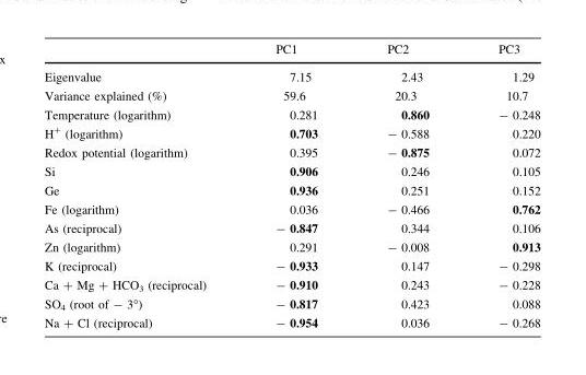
<table><thead><tr><td></td><td>PC1</td><td>PC2</td><td>PC3</td></tr></thead><tbody><tr><td>Eigenvalue</td><td>7.15</td><td>2.43</td><td>1.29</td></tr><tr><td>Variance explained (%)</td><td>59.6</td><td>20.3</td><td>10.7</td></tr><tr><td>Temperature (logarithm)</td><td>0.281</td><td>0.860</td><td>- 0.248</td></tr><tr><td>H<sup>+</sup> (logarithm)</td><td>0.703</td><td>- 0.588</td><td>0.220</td></tr><tr><td>Redox potential (logarithm)</td><td>0.395</td><td>- 0.875</td><td>0.072</td></tr><tr><td>Si</td><td>0.906</td><td>0.246</td><td>0.105</td></tr><tr><td>Ge</td><td>0.936</td><td>0.251</td><td>0.152</td></tr><tr><td>Fe (logarithm)</td><td>0.036</td><td>- 0.466</td><td>0.762</td></tr><tr><td>As (reciprocal)</td><td>- 0.847</td><td>0.344</td><td>0.106</td></tr><tr><td>Zn (logarithm)</td><td>0.291</td><td>- 0.008</td><td>0.913</td></tr><tr><td>K (reciprocal)</td><td>- 0.933</td><td>0.147</td><td>- 0.298</td></tr><tr><td>Ca + Mg + HCO<sub>3</sub> (reciprocal)</td><td>- 0.910</td><td>0.243</td><td>- 0.228</td></tr><tr><td>SO<sub>4</sub> (root of - 3°)</td><td>- 0.817</td><td>0.423</td><td>0.088</td></tr><tr><td>Na + Cl (reciprocal)</td><td>- 0.954</td><td>0.036</td><td>- 0.268</td></tr></tbody></table>